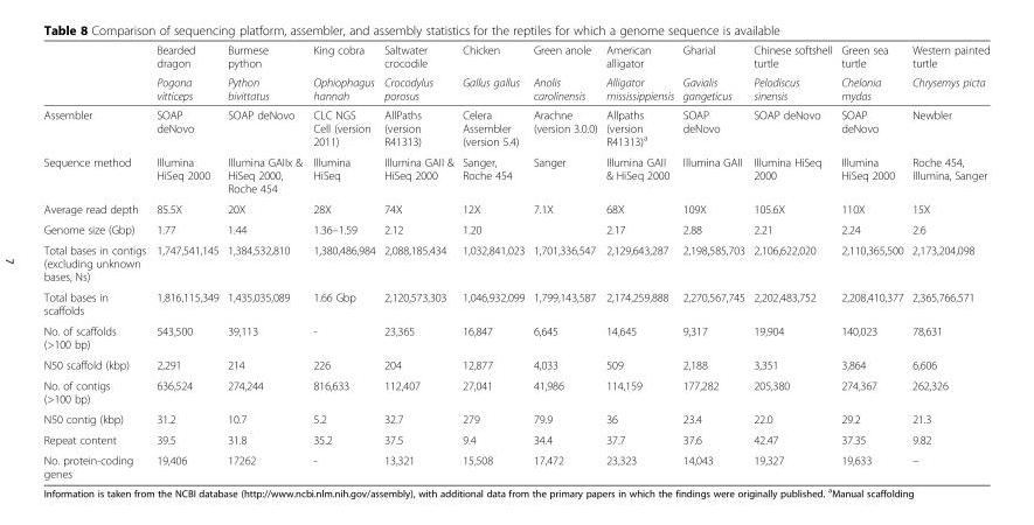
<table><thead><tr><td rowspan="2"></td><td rowspan="2">Bearded dragon Pogona vitticeps</td><td rowspan="2">Burmese python Python bivittatus</td><td rowspan="2">King cobra Ophiophagus hannah</td><td rowspan="2">Saltwater crocodile Crocodylus porosus</td><td rowspan="2">Chicken Gallus gallus</td><td rowspan="2">Green anole Anolis carolinensis</td><td rowspan="2">American alligator Alligator mississippiensis</td><td rowspan="2">Gharial Gavialis gangeticus</td><td rowspan="2">Chinese softshell turtle Pelodiscus sinensis</td><td rowspan="2">Green sea turtle Chelonia mydas</td><td rowspan="2">Western painted turtle Chrysemys picta</td></tr><tr></tr></thead><tbody><tr><td>Assembler</td><td>SOAP deNovo</td><td>SOAP deNovo</td><td>CLC NGS Cell (version 2011)</td><td>AllPaths (version R41313)</td><td>Celera Assembler (version 5.4)</td><td>Arachne (version 3.0.0)</td><td>Allpaths (version R41313)<sup>a</sup></td><td>SOAP deNovo</td><td>SOAP deNovo</td><td>SOAP deNovo</td><td>Newbler</td></tr><tr><td>Sequence method</td><td>Illumina HiSeq 2000</td><td>Illumina GAIIx &amp; HiSeq 2000, Roche 454</td><td>Illumina HiSeq</td><td>Illumina GAII &amp; HiSeq 2000</td><td>Sanger, Roche 454</td><td>Sanger</td><td>Illumina GAII &amp; HiSeq 2000</td><td>Illumina GAII</td><td>Illumina HiSeq 2000</td><td>Illumina HiSeq 2000</td><td>Roche 454, Illumina, Sanger</td></tr><tr><td>Average read depth</td><td>85.5X</td><td>20X</td><td>28X</td><td>74X</td><td>12X</td><td>7.1X</td><td>68X</td><td>109X</td><td>105.6X</td><td>110X</td><td>15X</td></tr><tr><td>Genome size (Gbp)</td><td>1.77</td><td>1.44</td><td>1.36–1.59</td><td>2.12</td><td>1.20</td><td></td><td>2.17</td><td>2.88</td><td>2.21</td><td>2.24</td><td>2.6</td></tr><tr><td>Total bases in contigs (excluding unknown bases, Ns)</td><td>1,747,541,145</td><td>1,384,532,810</td><td>1,380,486,984</td><td>2,088,185,434</td><td>1,032,841,023</td><td>1,701,336,547</td><td>2,129,643,287</td><td>2,198,585,703</td><td>2,106,622,020</td><td>2,110,365,500</td><td>2,173,204,098</td></tr><tr><td>Total bases in scaffolds</td><td>1,816,115,349</td><td>1,435,035,089</td><td>1.66 Gbp</td><td>2,120,573,303</td><td>1,046,932,099</td><td>1,799,143,587</td><td>2,174,259,888</td><td>2,270,567,745</td><td>2,202,483,752</td><td>2,208,410,377</td><td>2,365,766,571</td></tr><tr><td>No. of scaffolds (&gt;100 bp)</td><td>543,500</td><td>39,113</td><td>-</td><td>23,365</td><td>16,847</td><td>6,645</td><td>14,645</td><td>9,317</td><td>19,904</td><td>140,023</td><td>78,631</td></tr><tr><td>N50 scaffold (kbp)</td><td>2,291</td><td>214</td><td>226</td><td>204</td><td>12,877</td><td>4,033</td><td>509</td><td>2,188</td><td>3,351</td><td>3,864</td><td>6,606</td></tr><tr><td>No. of contigs (&gt;100 bp)</td><td>636,524</td><td>274,244</td><td>816,633</td><td>112,407</td><td>27,041</td><td>41,986</td><td>114,159</td><td>177,282</td><td>205,380</td><td>274,367</td><td>262,326</td></tr><tr><td>N50 contig (kbp)</td><td>31.2</td><td>10.7</td><td>5.2</td><td>32.7</td><td>279</td><td>79.9</td><td>36</td><td>23.4</td><td>22.0</td><td>29.2</td><td>21.3</td></tr><tr><td>Repeat content</td><td>39.5</td><td>31.8</td><td>35.2</td><td>37.5</td><td>9.4</td><td>34.4</td><td>37.7</td><td>37.6</td><td>42.47</td><td>37.35</td><td>9.82</td></tr><tr><td>No. protein-coding genes</td><td>19,406</td><td>17262</td><td>-</td><td>13,321</td><td>15,508</td><td>17,472</td><td>23,323</td><td>14,043</td><td>19,327</td><td>19,633</td><td>–</td></tr></tbody></table>